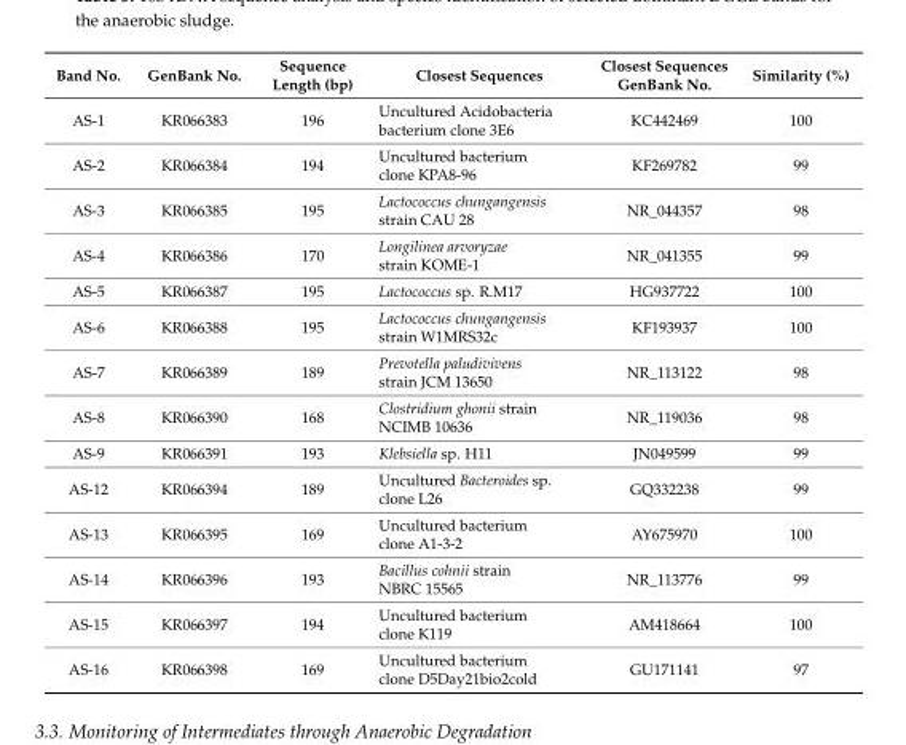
<table><thead><tr><td>Band No.</td><td>GenBank No.</td><td>Sequence Length (bp)</td><td>Closest Sequences</td><td>Closest Sequences GenBank No.</td><td>Similarity (%)</td></tr></thead><tbody><tr><td>AS-1</td><td>KR066383</td><td>196</td><td>Uncultured Acidobacteria bacterium clone 3E6</td><td>KC442469</td><td>100</td></tr><tr><td>AS-2</td><td>KR066384</td><td>194</td><td>Uncultured bacterium clone KPA8-96</td><td>KF269782</td><td>99</td></tr><tr><td>AS-3</td><td>KR066385</td><td>195</td><td>Lactococcus chungangensis strain CAU 28</td><td>NR_044357</td><td>98</td></tr><tr><td>AS-4</td><td>KR066386</td><td>170</td><td>Longilinea arvoryzae strain KOME-1</td><td>NR_041355</td><td>99</td></tr><tr><td>AS-5</td><td>KR066387</td><td>195</td><td>Lactococcus sp. R.M17</td><td>HG937722</td><td>100</td></tr><tr><td>AS-6</td><td>KR066388</td><td>195</td><td>Lactococcus chungangensis strain W1MRS32c</td><td>KF193937</td><td>100</td></tr><tr><td>AS-7</td><td>KR066389</td><td>189</td><td>Prevotella paludivivens strain JCM 13650</td><td>NR_113122</td><td>98</td></tr><tr><td>AS-8</td><td>KR066390</td><td>168</td><td>Clostridium ghonii strain NCIMB 10636</td><td>NR_119036</td><td>98</td></tr><tr><td>AS-9</td><td>KR066391</td><td>193</td><td>Klebsiella sp. H11</td><td>JN049599</td><td>99</td></tr><tr><td>AS-12</td><td>KR066394</td><td>189</td><td>Uncultured Bacteroides sp. clone L26</td><td>GQ332238</td><td>99</td></tr><tr><td>AS-13</td><td>KR066395</td><td>169</td><td>Uncultured bacterium clone A1-3-2</td><td>AY675970</td><td>100</td></tr><tr><td>AS-14</td><td>KR066396</td><td>193</td><td>Bacillus cohnii strain NBRC 15565</td><td>NR_113776</td><td>99</td></tr><tr><td>AS-15</td><td>KR066397</td><td>194</td><td>Uncultured bacterium clone K119</td><td>AM418664</td><td>100</td></tr><tr><td>AS-16</td><td>KR066398</td><td>169</td><td>Uncultured bacterium clone D5Day21bio2cold</td><td>GU171141</td><td>97</td></tr></tbody></table>